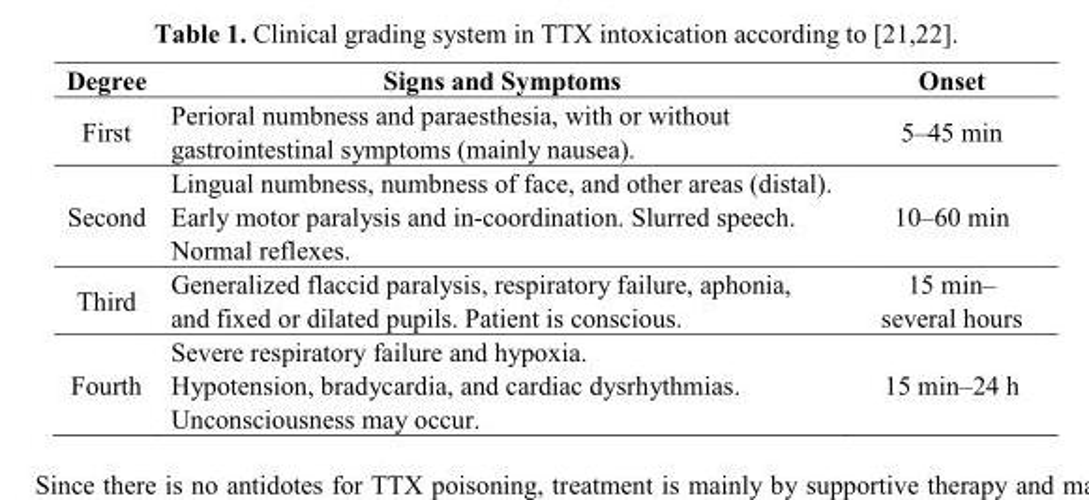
<table><thead><tr><td>Degree</td><td>Signs and Symptoms</td><td>Onset</td></tr></thead><tbody><tr><td>First</td><td>Perioral numbness and paraesthesia, with or without gastrointestinal symptoms (mainly nausea).</td><td>5–45 min</td></tr><tr><td>Second</td><td>Lingual numbness, numbness of face, and other areas (distal). Early motor paralysis and in-coordination. Slurred speech. Normal reflexes.</td><td>10–60 min</td></tr><tr><td>Third</td><td>Generalized flaccid paralysis, respiratory failure, aphonia, and fixed or dilated pupils. Patient is conscious.</td><td>15 min– several hours</td></tr><tr><td>Fourth</td><td>Severe respiratory failure and hypoxia. Hypotension, bradycardia, and cardiac dysrhythmias. Unconsciousness may occur.</td><td>15 min–24 h</td></tr></tbody></table>